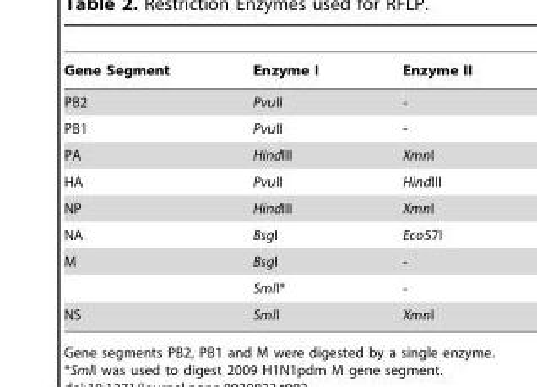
<table><thead><tr><td>Gene Segment</td><td>Enzyme I</td><td>Enzyme II</td></tr></thead><tbody><tr><td>PB2</td><td>PvuII</td><td>-</td></tr><tr><td>PB1</td><td>PvuII</td><td>-</td></tr><tr><td>PA</td><td>HindIII</td><td>XmnI</td></tr><tr><td>HA</td><td>PvuII</td><td>HindIII</td></tr><tr><td>NP</td><td>HindIII</td><td>XmnI</td></tr><tr><td>NA</td><td>BsgI</td><td>Eco57I</td></tr><tr><td rowspan="2">M</td><td>BsgI</td><td>-</td></tr><tr><td>SmlI*</td><td>-</td></tr><tr><td>NS</td><td>SmlI</td><td>XmnI</td></tr></tbody></table>